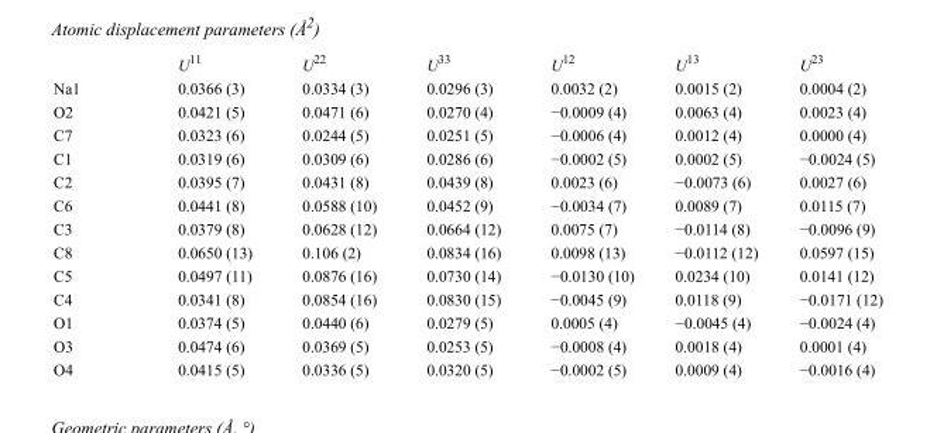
<table><thead><tr><td></td><td>U<sup>11</sup></td><td>U<sup>22</sup></td><td>U<sup>33</sup></td><td>U<sup>12</sup></td><td>U<sup>13</sup></td><td>U<sup>23</sup></td></tr></thead><tbody><tr><td>Na1</td><td>0.0366 (3)</td><td>0.0334 (3)</td><td>0.0296 (3)</td><td>0.0032 (2)</td><td>0.0015 (2)</td><td>0.0004 (2)</td></tr><tr><td>O2</td><td>0.0421 (5)</td><td>0.0471 (6)</td><td>0.0270 (4)</td><td>−0.0009 (4)</td><td>0.0063 (4)</td><td>0.0023 (4)</td></tr><tr><td>C7</td><td>0.0323 (6)</td><td>0.0244 (5)</td><td>0.0251 (5)</td><td>−0.0006 (4)</td><td>0.0012 (4)</td><td>0.0000 (4)</td></tr><tr><td>C1</td><td>0.0319 (6)</td><td>0.0309 (6)</td><td>0.0286 (6)</td><td>−0.0002 (5)</td><td>0.0002 (5)</td><td>−0.0024 (5)</td></tr><tr><td>C2</td><td>0.0395 (7)</td><td>0.0431 (8)</td><td>0.0439 (8)</td><td>0.0023 (6)</td><td>−0.0073 (6)</td><td>0.0027 (6)</td></tr><tr><td>C6</td><td>0.0441 (8)</td><td>0.0588 (10)</td><td>0.0452 (9)</td><td>−0.0034 (7)</td><td>0.0089 (7)</td><td>0.0115 (7)</td></tr><tr><td>C3</td><td>0.0379 (8)</td><td>0.0628 (12)</td><td>0.0664 (12)</td><td>0.0075 (7)</td><td>−0.0114 (8)</td><td>−0.0096 (9)</td></tr><tr><td>C8</td><td>0.0650 (13)</td><td>0.106 (2)</td><td>0.0834 (16)</td><td>0.0098 (13)</td><td>−0.0112 (12)</td><td>0.0597 (15)</td></tr><tr><td>C5</td><td>0.0497 (11)</td><td>0.0876 (16)</td><td>0.0730 (14)</td><td>−0.0130 (10)</td><td>0.0234 (10)</td><td>0.0141 (12)</td></tr><tr><td>C4</td><td>0.0341 (8)</td><td>0.0854 (16)</td><td>0.0830 (15)</td><td>−0.0045 (9)</td><td>0.0118 (9)</td><td>−0.0171 (12)</td></tr><tr><td>O1</td><td>0.0374 (5)</td><td>0.0440 (6)</td><td>0.0279 (5)</td><td>0.0005 (4)</td><td>−0.0045 (4)</td><td>−0.0024 (4)</td></tr><tr><td>O3</td><td>0.0474 (6)</td><td>0.0369 (5)</td><td>0.0253 (5)</td><td>−0.0008 (4)</td><td>0.0018 (4)</td><td>0.0001 (4)</td></tr><tr><td>O4</td><td>0.0415 (5)</td><td>0.0336 (5)</td><td>0.0320 (5)</td><td>−0.0002 (5)</td><td>0.0009 (4)</td><td>−0.0016 (4)</td></tr></tbody></table>